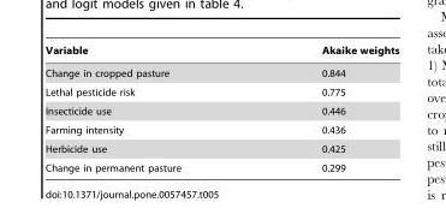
<table><thead><tr><td>Variable</td><td>Akaike weights</td></tr></thead><tbody><tr><td>Change in cropped pasture</td><td>0.844</td></tr><tr><td>Lethal pesticide risk</td><td>0.775</td></tr><tr><td>Insecticide use</td><td>0.446</td></tr><tr><td>Farming intensity</td><td>0.436</td></tr><tr><td>Herbicide use</td><td>0.425</td></tr><tr><td>Change in permanent pasture</td><td>0.299</td></tr></tbody></table>